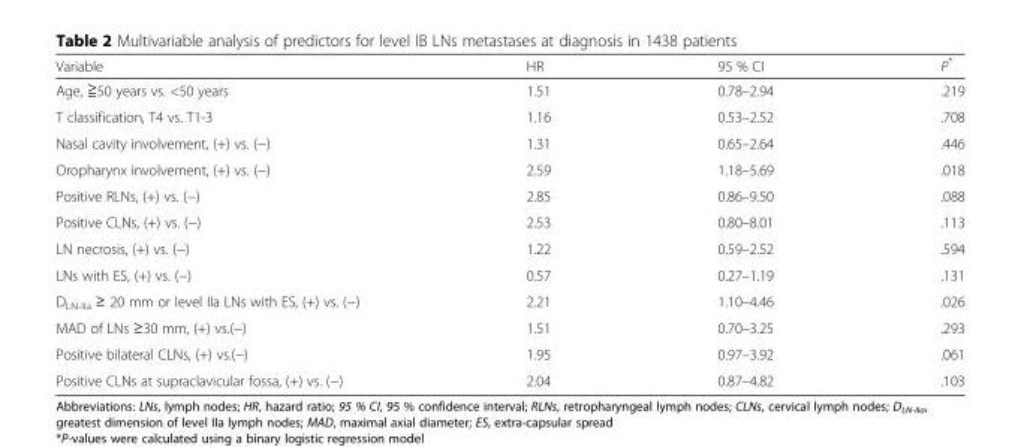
<table><thead><tr><td>Variable</td><td>HR</td><td>95 % CI</td><td>P*</td></tr></thead><tbody><tr><td>Age, ≧50 years vs. &lt;50 years</td><td>1.51</td><td>0.78–2.94</td><td>.219</td></tr><tr><td>T classification, T4 vs. T1-3</td><td>1.16</td><td>0.53–2.52</td><td>.708</td></tr><tr><td>Nasal cavity involvement, (+) vs. (−)</td><td>1.31</td><td>0.65–2.64</td><td>.446</td></tr><tr><td>Oropharynx involvement, (+) vs. (−)</td><td>2.59</td><td>1.18–5.69</td><td>.018</td></tr><tr><td>Positive RLNs, (+) vs. (−)</td><td>2.85</td><td>0.86–9.50</td><td>.088</td></tr><tr><td>Positive CLNs, (+) vs. (−)</td><td>2.53</td><td>0.80–8.01</td><td>.113</td></tr><tr><td>LN necrosis, (+) vs. (−)</td><td>1.22</td><td>0.59–2.52</td><td>.594</td></tr><tr><td>LNs with ES, (+) vs. (−)</td><td>0.57</td><td>0.27–1.19</td><td>.131</td></tr><tr><td>D<sub>LN-IIa</sub> ≥ 20 mm or level IIa LNs with ES, (+) vs. (−)</td><td>2.21</td><td>1.10–4.46</td><td>.026</td></tr><tr><td>MAD of LNs ≥30 mm, (+) vs.(−)</td><td>1.51</td><td>0.70–3.25</td><td>.293</td></tr><tr><td>Positive bilateral CLNs, (+) vs.(−)</td><td>1.95</td><td>0.97–3.92</td><td>.061</td></tr><tr><td>Positive CLNs at supraclavicular fossa, (+) vs. (−)</td><td>2.04</td><td>0.87–4.82</td><td>.103</td></tr></tbody></table>